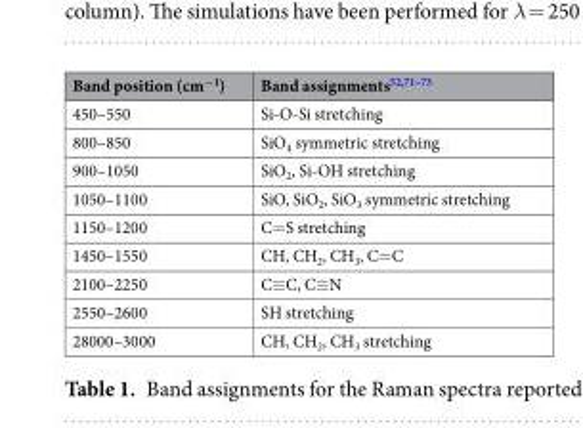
<table><thead><tr><td>Band position (cm<sup>−1</sup>)</td><td>Band assignments<sup>52,71–73</sup></td></tr></thead><tbody><tr><td>450–550</td><td>Si-O-Si stretching</td></tr><tr><td>800–850</td><td>SiO<sub>4</sub> symmetric stretching</td></tr><tr><td>900–1050</td><td>SiO<sub>2</sub>, Si-OH stretching</td></tr><tr><td>1050–1100</td><td>SiO, SiO<sub>2</sub>, SiO<sub>3</sub> symmetric stretching</td></tr><tr><td>1150–1200</td><td>C=S stretching</td></tr><tr><td>1450–1550</td><td>CH, CH<sub>2</sub>, CH<sub>3</sub>, C=C</td></tr><tr><td>2100–2250</td><td>C≡C, C≡N</td></tr><tr><td>2550–2600</td><td>SH stretching</td></tr><tr><td>28000–3000</td><td>CH, CH<sub>2</sub>, CH<sub>3</sub> stretching</td></tr></tbody></table>